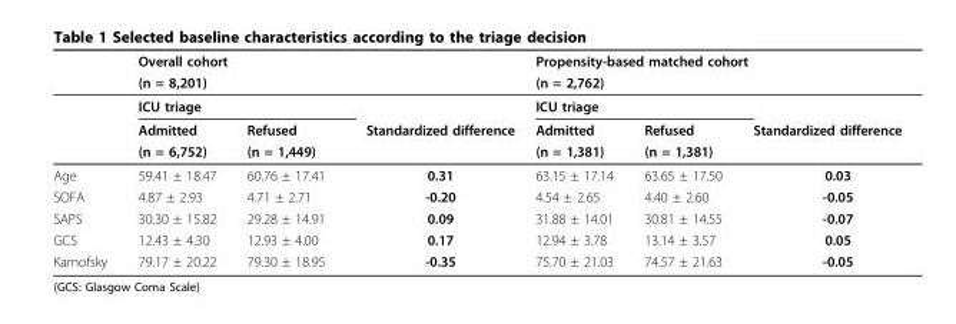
<table><thead><tr><td rowspan="4"></td><td rowspan="2" colspan="3">Overall cohort (n = 8,201)</td><td rowspan="2" colspan="3">Propensity-based matched cohort (n = 2,762)</td></tr><tr></tr><tr><td colspan="2">ICU triage</td><td rowspan="2">Standardized difference</td><td colspan="2">ICU triage</td><td rowspan="2">Standardized difference</td></tr><tr><td>Admitted</td><td>Refused</td><td>Admitted</td><td>Refused</td></tr></thead><tbody><tr><td></td><td>(n = 6,752)</td><td>(n = 1,449)</td><td></td><td>(n = 1,381)</td><td>(n = 1,381)</td><td></td></tr><tr><td>Age</td><td>59.41 ± 18.47</td><td>60.76 ± 17.41</td><td>0.31</td><td>63.15 ± 17.14</td><td>63.65 ± 17.50</td><td>0.03</td></tr><tr><td>SOFA</td><td>4.87 ± 2.93</td><td>4.71 ± 2.71</td><td>-0.20</td><td>4.54 ± 2.65</td><td>4.40 ± 2.60</td><td>-0.05</td></tr><tr><td>SAPS</td><td>30.30 ± 15.82</td><td>29.28 ± 14.91</td><td>0.09</td><td>31.88 ± 14.01</td><td>30.81 ± 14.55</td><td>-0.07</td></tr><tr><td>GCS</td><td>12.43 ± 4.30</td><td>12.93 ± 4.00</td><td>0.17</td><td>12.94 ± 3.78</td><td>13.14 ± 3.57</td><td>0.05</td></tr><tr><td>Karnofsky</td><td>79.17 ± 20.22</td><td>79.30 ± 18.95</td><td>-0.35</td><td>75.70 ± 21.03</td><td>74.57 ± 21.63</td><td>-0.05</td></tr></tbody></table>